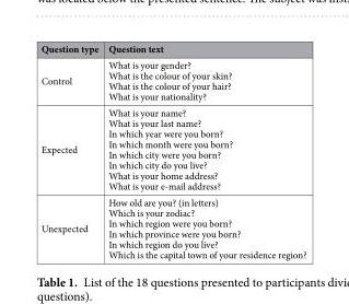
<table><thead><tr><td>Question type</td><td>Question text</td></tr></thead><tbody><tr><td>Control</td><td>What is your gender? What is the colour of your skin? What is the colour of your hair? What is your nationality?</td></tr><tr><td>Expected</td><td>What is your name? What is your last name? In which year were you born? In which month were you born? In which city were you born? In which city do you live? What is your home address? What is your e-mail address?</td></tr><tr><td>Unexpected</td><td>How old are you? (in letters) Which is your zodiac? In which region were you born? In which province were you born? In which region do you live? Which is the capital town of your residence region?</td></tr></tbody></table>